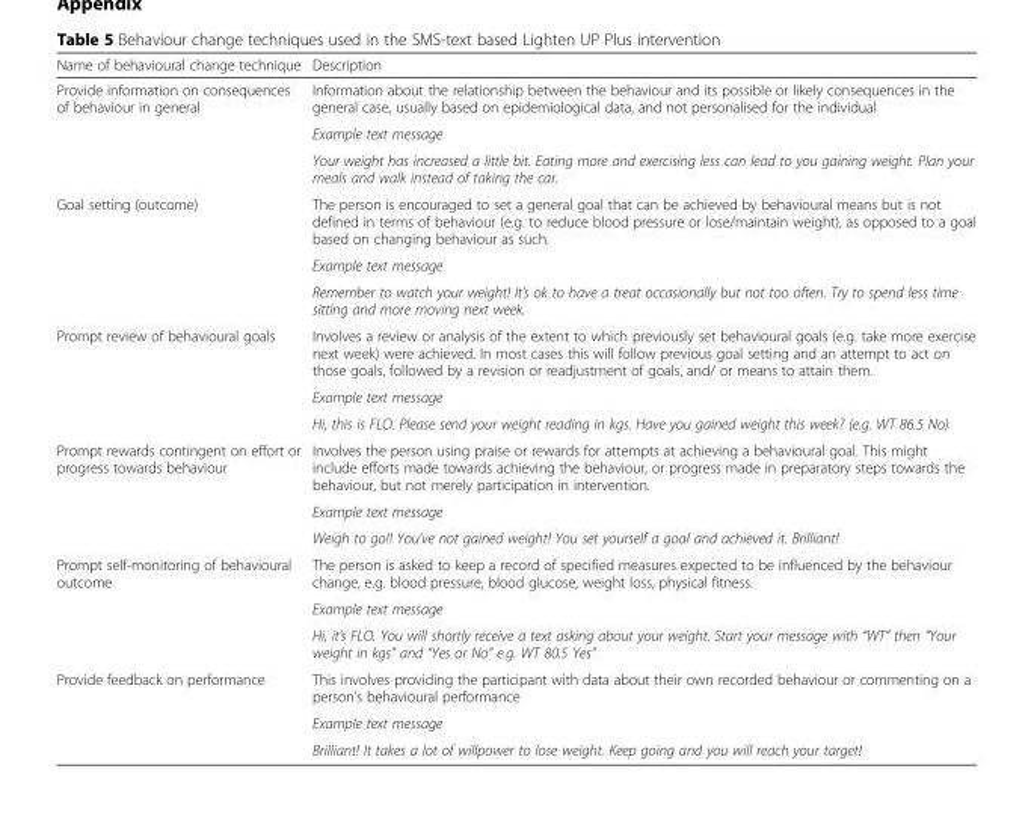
<table><thead><tr><td>Name of behavioural change technique</td><td>Description</td></tr></thead><tbody><tr><td rowspan="3">Provide information on consequences of behaviour in general</td><td>Information about the relationship between the behaviour and its possible or likely consequences in the general case, usually based on epidemiological data, and not personalised for the individual</td></tr><tr><td>Example text message</td></tr><tr><td>Your weight has increased a little bit. Eating more and exercising less can lead to you gaining weight. Plan your meals and walk instead of taking the car.</td></tr><tr><td rowspan="3">Goal setting (outcome)</td><td>The person is encouraged to set a general goal that can be achieved by behavioural means but is not defined in terms of behaviour (e.g. to reduce blood pressure or lose/maintain weight), as opposed to a goal based on changing behaviour as such.</td></tr><tr><td>Example text message</td></tr><tr><td>Remember to watch your weight! It’s ok to have a treat occasionally but not too often. Try to spend less time sitting and more moving next week.</td></tr><tr><td rowspan="3">Prompt review of behavioural goals</td><td>Involves a review or analysis of the extent to which previously set behavioural goals (e.g. take more exercise next week) were achieved. In most cases this will follow previous goal setting and an attempt to act on those goals, followed by a revision or readjustment of goals, and/ or means to attain them.</td></tr><tr><td>Example text message</td></tr><tr><td>Hi, this is FLO. Please send your weight reading in kgs. Have you gained weight this week? (e.g. WT 86.5 No)</td></tr><tr><td rowspan="3">Prompt rewards contingent on effort or progress towards behaviour</td><td>Involves the person using praise or rewards for attempts at achieving a behavioural goal. This might include efforts made towards achieving the behaviour, or progress made in preparatory steps towards the behaviour, but not merely participation in intervention.</td></tr><tr><td>Example text message</td></tr><tr><td>Weigh to go!! You’ve not gained weight! You set yourself a goal and achieved it. Brilliant!</td></tr><tr><td rowspan="3">Prompt self-monitoring of behavioural outcome</td><td>The person is asked to keep a record of specified measures expected to be influenced by the behaviour change, e.g. blood pressure, blood glucose, weight loss, physical fitness.</td></tr><tr><td>Example text message</td></tr><tr><td>Hi, it’s FLO. You will shortly receive a text asking about your weight. Start your message with “WT” then “Your weight in kgs” and “Yes or No” e.g. WT 80.5 Yes”</td></tr><tr><td rowspan="3">Provide feedback on performance</td><td>This involves providing the participant with data about their own recorded behaviour or commenting on a person’s behavioural performance</td></tr><tr><td>Example text message</td></tr><tr><td>Brilliant! It takes a lot of willpower to lose weight. Keep going and you will reach your target!</td></tr></tbody></table>